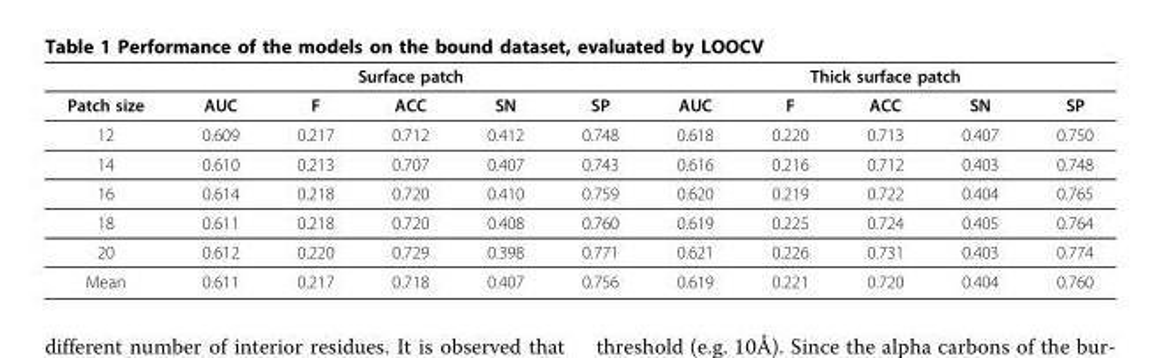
<table><thead><tr><td rowspan="2">Patch size</td><td colspan="5">Surface patch</td><td colspan="5">Thick surface patch</td></tr><tr><td>AUC</td><td>F</td><td>ACC</td><td>SN</td><td>SP</td><td>AUC</td><td>F</td><td>ACC</td><td>SN</td><td>SP</td></tr></thead><tbody><tr><td>12</td><td>0.609</td><td>0.217</td><td>0.712</td><td>0.412</td><td>0.748</td><td>0.618</td><td>0.220</td><td>0.713</td><td>0.407</td><td>0.750</td></tr><tr><td>14</td><td>0.610</td><td>0.213</td><td>0.707</td><td>0.407</td><td>0.743</td><td>0.616</td><td>0.216</td><td>0.712</td><td>0.403</td><td>0.748</td></tr><tr><td>16</td><td>0.614</td><td>0.218</td><td>0.720</td><td>0.410</td><td>0.759</td><td>0.620</td><td>0.219</td><td>0.722</td><td>0.404</td><td>0.765</td></tr><tr><td>18</td><td>0.611</td><td>0.218</td><td>0.720</td><td>0.408</td><td>0.760</td><td>0.619</td><td>0.225</td><td>0.724</td><td>0.405</td><td>0.764</td></tr><tr><td>20</td><td>0.612</td><td>0.220</td><td>0.729</td><td>0.398</td><td>0.771</td><td>0.621</td><td>0.226</td><td>0.731</td><td>0.403</td><td>0.774</td></tr><tr><td>Mean</td><td>0.611</td><td>0.217</td><td>0.718</td><td>0.407</td><td>0.756</td><td>0.619</td><td>0.221</td><td>0.720</td><td>0.404</td><td>0.760</td></tr></tbody></table>